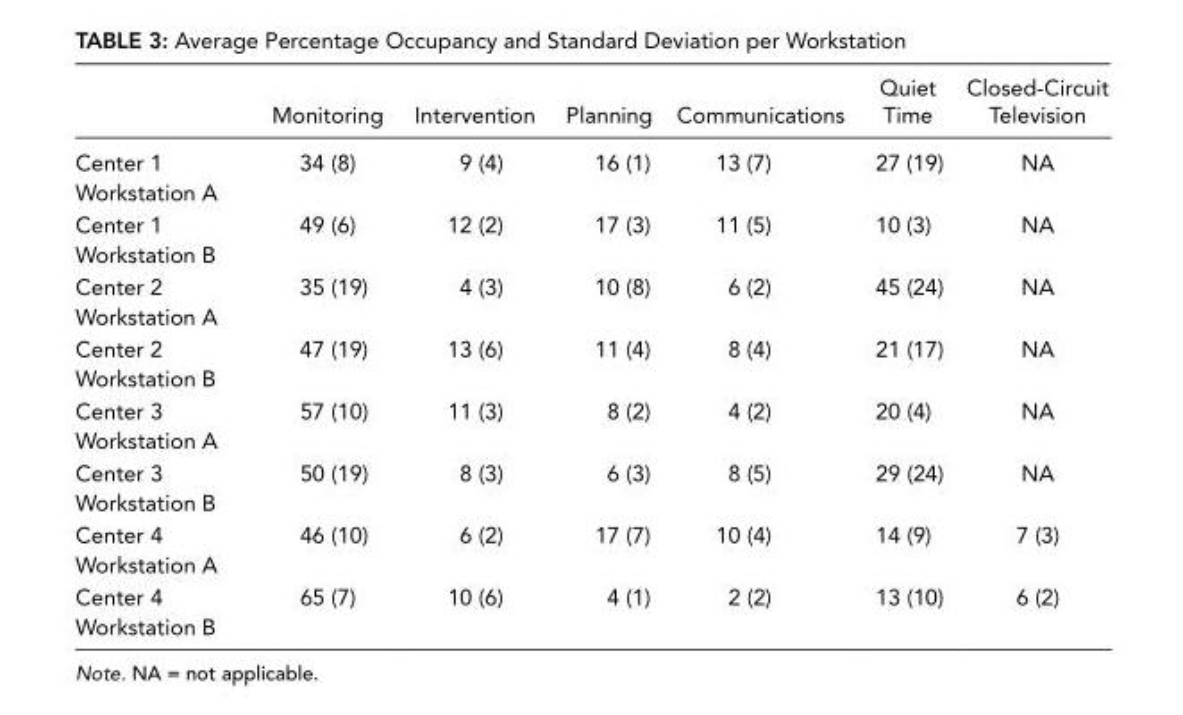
<table><thead><tr><td></td><td>Monitoring</td><td>Intervention</td><td>Planning</td><td>Communications</td><td>Quiet Time</td><td>Closed-Circuit Television</td></tr></thead><tbody><tr><td>Center 1 Workstation A</td><td>34 (8)</td><td>9 (4)</td><td>16 (1)</td><td>13 (7)</td><td>27 (19)</td><td>NA</td></tr><tr><td>Center 1 Workstation B</td><td>49 (6)</td><td>12 (2)</td><td>17 (3)</td><td>11 (5)</td><td>10 (3)</td><td>NA</td></tr><tr><td>Center 2 Workstation A</td><td>35 (19)</td><td>4 (3)</td><td>10 (8)</td><td>6 (2)</td><td>45 (24)</td><td>NA</td></tr><tr><td>Center 2 Workstation B</td><td>47 (19)</td><td>13 (6)</td><td>11 (4)</td><td>8 (4)</td><td>21 (17)</td><td>NA</td></tr><tr><td>Center 3 Workstation A</td><td>57 (10)</td><td>11 (3)</td><td>8 (2)</td><td>4 (2)</td><td>20 (4)</td><td>NA</td></tr><tr><td>Center 3 Workstation B</td><td>50 (19)</td><td>8 (3)</td><td>6 (3)</td><td>8 (5)</td><td>29 (24)</td><td>NA</td></tr><tr><td>Center 4 Workstation A</td><td>46 (10)</td><td>6 (2)</td><td>17 (7)</td><td>10 (4)</td><td>14 (9)</td><td>7 (3)</td></tr><tr><td>Center 4 Workstation B</td><td>65 (7)</td><td>10 (6)</td><td>4 (1)</td><td>2 (2)</td><td>13 (10)</td><td>6 (2)</td></tr></tbody></table>